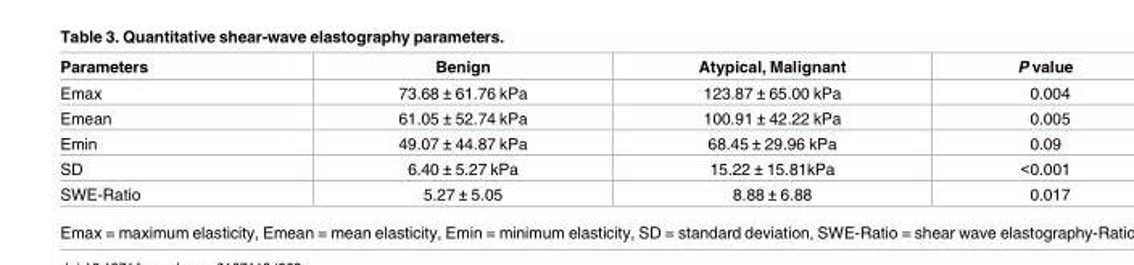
<table><thead><tr><td>Parameters</td><td>Benign</td><td>Atypical, Malignant</td><td>P value</td></tr></thead><tbody><tr><td>Emax</td><td>73.68 ± 61.76 kPa</td><td>123.87 ± 65.00 kPa</td><td>0.004</td></tr><tr><td>Emean</td><td>61.05 ± 52.74 kPa</td><td>100.91 ± 42.22 kPa</td><td>0.005</td></tr><tr><td>Emin</td><td>49.07 ± 44.87 kPa</td><td>68.45 ± 29.96 kPa</td><td>0.09</td></tr><tr><td>SD</td><td>6.40 ± 5.27 kPa</td><td>15.22 ± 15.81kPa</td><td>&lt;0.001</td></tr><tr><td>SWE-Ratio</td><td>5.27 ± 5.05</td><td>8.88 ± 6.88</td><td>0.017</td></tr></tbody></table>